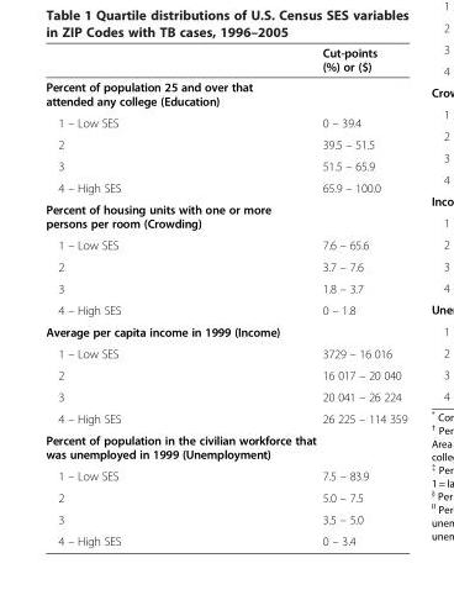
<table><thead><tr><td></td><td>Cut-points (%) or ($)</td></tr></thead><tbody><tr><td colspan="2">Percent of population 25 and over that attended any college (Education)</td></tr><tr><td>1 – Low SES</td><td>0 – 39.4</td></tr><tr><td>2</td><td>39.5 – 51.5</td></tr><tr><td>3</td><td>51.5 – 65.9</td></tr><tr><td>4 – High SES</td><td>65.9 – 100.0</td></tr><tr><td colspan="2">Percent of housing units with one or more persons per room (Crowding)</td></tr><tr><td>1 – Low SES</td><td>7.6 – 65.6</td></tr><tr><td>2</td><td>3.7 – 7.6</td></tr><tr><td>3</td><td>1.8 – 3.7</td></tr><tr><td>4 – High SES</td><td>0 – 1.8</td></tr><tr><td colspan="2">Average per capita income in 1999 (Income)</td></tr><tr><td>1 – Low SES</td><td>3729 – 16 016</td></tr><tr><td>2</td><td>16 017 – 20 040</td></tr><tr><td>3</td><td>20 041 – 26 224</td></tr><tr><td>4 – High SES</td><td>26 225 – 114 359</td></tr><tr><td colspan="2">Percent of population in the civilian workforce that was unemployed in 1999 (Unemployment)</td></tr><tr><td>1 – Low SES</td><td>7.5 – 83.9</td></tr><tr><td>2</td><td>5.0 – 7.5</td></tr><tr><td>3</td><td>3.5 – 5.0</td></tr><tr><td>4 – High SES</td><td>0 – 3.4</td></tr></tbody></table>